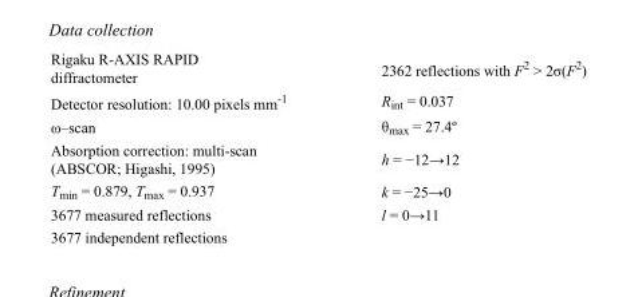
<table><tbody><tr><td>Rigaku R-AXIS RAPID diffractometer</td><td>2362 reflections with F<sup>2</sup> &gt; 2σ(F<sup>2</sup>)</td></tr><tr><td>Detector resolution: 10.00 pixels mm<sup>-1</sup></td><td>R<sub>int</sub> = 0.037</td></tr><tr><td>ω–scan</td><td>θ<sub>max</sub> = 27.4º</td></tr><tr><td>Absorption correction: multi-scan (ABSCOR; Higashi, 1995)</td><td>h = −12→12</td></tr><tr><td>T<sub>min</sub> = 0.879, T<sub>max</sub> = 0.937</td><td>k = −25→0</td></tr><tr><td>3677 measured reflections</td><td>l = 0→11</td></tr><tr><td>3677 independent reflections</td><td></td></tr></tbody></table>